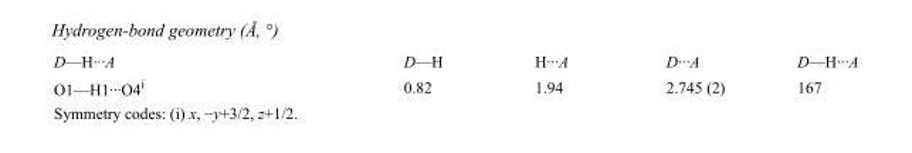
<table><tbody><tr><td>D—H···A</td><td>D—H</td><td>H···A</td><td>D···A</td><td>D—H···A</td></tr><tr><td>O1—H1···O4<sup>i</sup></td><td>0.82</td><td>1.94</td><td>2.745 (2)</td><td>167</td></tr></tbody></table>